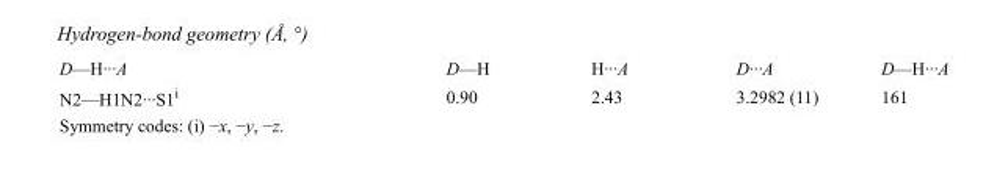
<table><tbody><tr><td>D—H···A</td><td>D—H</td><td>H···A</td><td>D···A</td><td>D—H···A</td></tr><tr><td>N2—H1N2···S1<sup>i</sup></td><td>0.90</td><td>2.43</td><td>3.2982 (11)</td><td>161</td></tr></tbody></table>